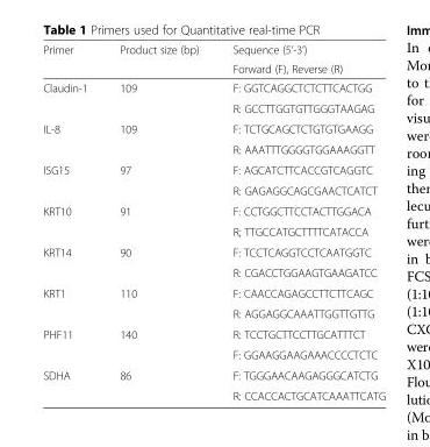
<table><thead><tr><td rowspan="2">Primer</td><td rowspan="2">Product size (bp)</td><td rowspan="2">Sequence (5’-3’) Forward (F), Reverse (R)</td></tr><tr></tr></thead><tbody><tr><td rowspan="2">Claudin-1</td><td rowspan="2">109</td><td>F: GGTCAGGCTCTCTTCACTGG</td></tr><tr><td>R: GCCTTGGTGTTGGGTAAGAG</td></tr><tr><td rowspan="2">IL-8</td><td rowspan="2">109</td><td>F: TCTGCAGCTCTGTGTGAAGG</td></tr><tr><td>R: AAATTTGGGGTGGAAAGGTT</td></tr><tr><td rowspan="2">ISG15</td><td rowspan="2">97</td><td>F: AGCATCTTCACCGTCAGGTC</td></tr><tr><td>R: GAGAGGCAGCGAACTCATCT</td></tr><tr><td rowspan="2">KRT10</td><td rowspan="2">91</td><td>F: CCTGGCTTCCTACTTGGACA</td></tr><tr><td>R; TTGCCATGCTTTTCATACCA</td></tr><tr><td rowspan="2">KRT14</td><td rowspan="2">90</td><td>F: TCCTCAGGTCCTCAATGGTC</td></tr><tr><td>R: CGACCTGGAAGTGAAGATCC</td></tr><tr><td rowspan="2">KRT1</td><td rowspan="2">110</td><td>F: CAACCAGAGCCTTCTTCAGC</td></tr><tr><td>R: AGGAGGCAAATTGGTTGTTG</td></tr><tr><td rowspan="2">PHF11</td><td rowspan="2">140</td><td>R: TCCTGCTTCCTTGCATTTCT</td></tr><tr><td>F: GGAAGGAAGAAACCCCTCTC</td></tr><tr><td rowspan="2">SDHA</td><td rowspan="2">86</td><td>F: TGGGAACAAGAGGGCATCTG</td></tr><tr><td>R: CCACCACTGCATCAAATTCATG</td></tr></tbody></table>